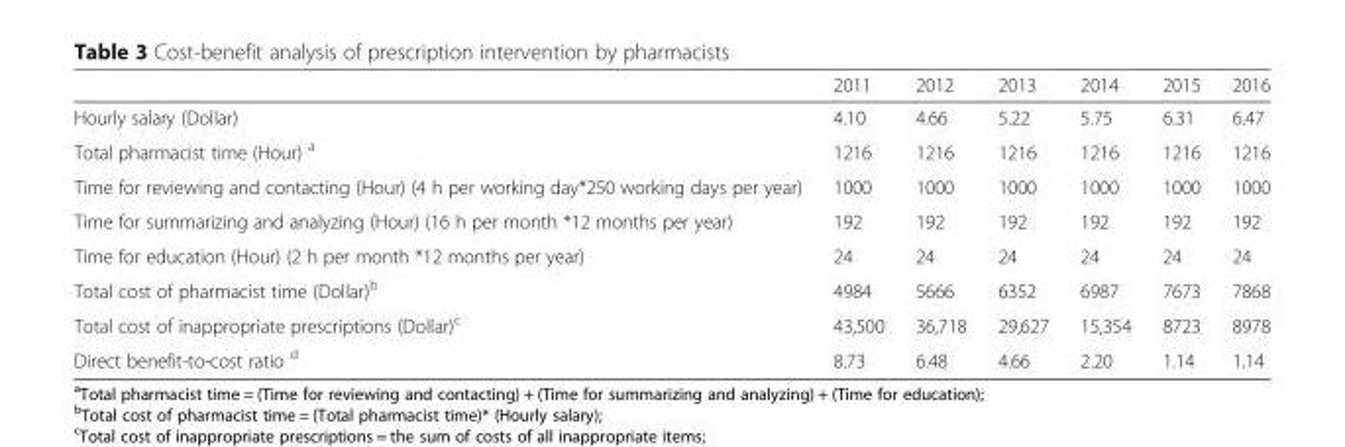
<table><thead><tr><td></td><td>2011</td><td>2012</td><td>2013</td><td>2014</td><td>2015</td><td>2016</td></tr></thead><tbody><tr><td>Hourly salary (Dollar)</td><td>4.10</td><td>4.66</td><td>5.22</td><td>5.75</td><td>6.31</td><td>6.47</td></tr><tr><td>Total pharmacist time (Hour) <sup>a</sup></td><td>1216</td><td>1216</td><td>1216</td><td>1216</td><td>1216</td><td>1216</td></tr><tr><td>Time for reviewing and contacting (Hour) (4 h per working day*250 working days per year)</td><td>1000</td><td>1000</td><td>1000</td><td>1000</td><td>1000</td><td>1000</td></tr><tr><td>Time for summarizing and analyzing (Hour) (16 h per month *12 months per year)</td><td>192</td><td>192</td><td>192</td><td>192</td><td>192</td><td>192</td></tr><tr><td>Time for education (Hour) (2 h per month *12 months per year)</td><td>24</td><td>24</td><td>24</td><td>24</td><td>24</td><td>24</td></tr><tr><td>Total cost of pharmacist time (Dollar)<sup>b</sup></td><td>4984</td><td>5666</td><td>6352</td><td>6987</td><td>7673</td><td>7868</td></tr><tr><td>Total cost of inappropriate prescriptions (Dollar)<sup>c</sup></td><td>43,500</td><td>36,718</td><td>29,627</td><td>15,354</td><td>8723</td><td>8978</td></tr><tr><td>Direct benefit-to-cost ratio <sup>d</sup></td><td>8.73</td><td>6.48</td><td>4.66</td><td>2.20</td><td>1.14</td><td>1.14</td></tr></tbody></table>